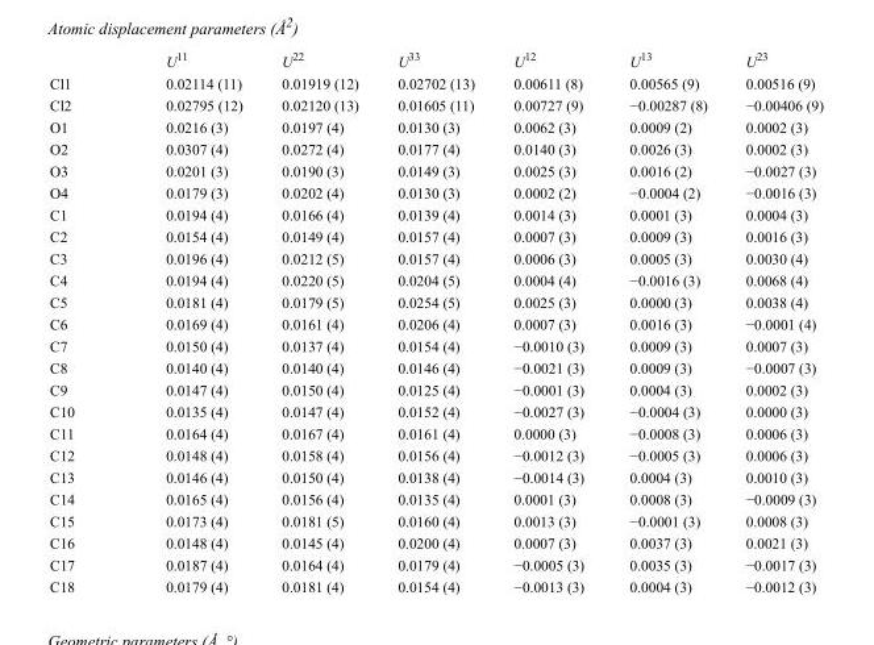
<table><thead><tr><td></td><td>U<sup>11</sup></td><td>U<sup>22</sup></td><td>U<sup>33</sup></td><td>U<sup>12</sup></td><td>U<sup>13</sup></td><td>U<sup>23</sup></td></tr></thead><tbody><tr><td>Cl1</td><td>0.02114 (11)</td><td>0.01919 (12)</td><td>0.02702 (13)</td><td>0.00611 (8)</td><td>0.00565 (9)</td><td>0.00516 (9)</td></tr><tr><td>Cl2</td><td>0.02795 (12)</td><td>0.02120 (13)</td><td>0.01605 (11)</td><td>0.00727 (9)</td><td>−0.00287 (8)</td><td>−0.00406 (9)</td></tr><tr><td>O1</td><td>0.0216 (3)</td><td>0.0197 (4)</td><td>0.0130 (3)</td><td>0.0062 (3)</td><td>0.0009 (2)</td><td>0.0002 (3)</td></tr><tr><td>O2</td><td>0.0307 (4)</td><td>0.0272 (4)</td><td>0.0177 (4)</td><td>0.0140 (3)</td><td>0.0026 (3)</td><td>0.0002 (3)</td></tr><tr><td>O3</td><td>0.0201 (3)</td><td>0.0190 (3)</td><td>0.0149 (3)</td><td>0.0025 (3)</td><td>0.0016 (2)</td><td>−0.0027 (3)</td></tr><tr><td>O4</td><td>0.0179 (3)</td><td>0.0202 (4)</td><td>0.0130 (3)</td><td>0.0002 (2)</td><td>−0.0004 (2)</td><td>−0.0016 (3)</td></tr><tr><td>C1</td><td>0.0194 (4)</td><td>0.0166 (4)</td><td>0.0139 (4)</td><td>0.0014 (3)</td><td>0.0001 (3)</td><td>0.0004 (3)</td></tr><tr><td>C2</td><td>0.0154 (4)</td><td>0.0149 (4)</td><td>0.0157 (4)</td><td>0.0007 (3)</td><td>0.0009 (3)</td><td>0.0016 (3)</td></tr><tr><td>C3</td><td>0.0196 (4)</td><td>0.0212 (5)</td><td>0.0157 (4)</td><td>0.0006 (3)</td><td>0.0005 (3)</td><td>0.0030 (4)</td></tr><tr><td>C4</td><td>0.0194 (4)</td><td>0.0220 (5)</td><td>0.0204 (5)</td><td>0.0004 (4)</td><td>−0.0016 (3)</td><td>0.0068 (4)</td></tr><tr><td>C5</td><td>0.0181 (4)</td><td>0.0179 (5)</td><td>0.0254 (5)</td><td>0.0025 (3)</td><td>0.0000 (3)</td><td>0.0038 (4)</td></tr><tr><td>C6</td><td>0.0169 (4)</td><td>0.0161 (4)</td><td>0.0206 (4)</td><td>0.0007 (3)</td><td>0.0016 (3)</td><td>−0.0001 (4)</td></tr><tr><td>C7</td><td>0.0150 (4)</td><td>0.0137 (4)</td><td>0.0154 (4)</td><td>−0.0010 (3)</td><td>0.0009 (3)</td><td>0.0007 (3)</td></tr><tr><td>C8</td><td>0.0140 (4)</td><td>0.0140 (4)</td><td>0.0146 (4)</td><td>−0.0021 (3)</td><td>0.0009 (3)</td><td>−0.0007 (3)</td></tr><tr><td>C9</td><td>0.0147 (4)</td><td>0.0150 (4)</td><td>0.0125 (4)</td><td>−0.0001 (3)</td><td>0.0004 (3)</td><td>0.0002 (3)</td></tr><tr><td>C10</td><td>0.0135 (4)</td><td>0.0147 (4)</td><td>0.0152 (4)</td><td>−0.0027 (3)</td><td>−0.0004 (3)</td><td>0.0000 (3)</td></tr><tr><td>C11</td><td>0.0164 (4)</td><td>0.0167 (4)</td><td>0.0161 (4)</td><td>0.0000 (3)</td><td>−0.0008 (3)</td><td>0.0006 (3)</td></tr><tr><td>C12</td><td>0.0148 (4)</td><td>0.0158 (4)</td><td>0.0156 (4)</td><td>−0.0012 (3)</td><td>−0.0005 (3)</td><td>0.0006 (3)</td></tr><tr><td>C13</td><td>0.0146 (4)</td><td>0.0150 (4)</td><td>0.0138 (4)</td><td>−0.0014 (3)</td><td>0.0004 (3)</td><td>0.0010 (3)</td></tr><tr><td>C14</td><td>0.0165 (4)</td><td>0.0156 (4)</td><td>0.0135 (4)</td><td>0.0001 (3)</td><td>0.0008 (3)</td><td>−0.0009 (3)</td></tr><tr><td>C15</td><td>0.0173 (4)</td><td>0.0181 (5)</td><td>0.0160 (4)</td><td>0.0013 (3)</td><td>−0.0001 (3)</td><td>0.0008 (3)</td></tr><tr><td>C16</td><td>0.0148 (4)</td><td>0.0145 (4)</td><td>0.0200 (4)</td><td>0.0007 (3)</td><td>0.0037 (3)</td><td>0.0021 (3)</td></tr><tr><td>C17</td><td>0.0187 (4)</td><td>0.0164 (4)</td><td>0.0179 (4)</td><td>−0.0005 (3)</td><td>0.0035 (3)</td><td>−0.0017 (3)</td></tr><tr><td>C18</td><td>0.0179 (4)</td><td>0.0181 (4)</td><td>0.0154 (4)</td><td>−0.0013 (3)</td><td>0.0004 (3)</td><td>−0.0012 (3)</td></tr></tbody></table>